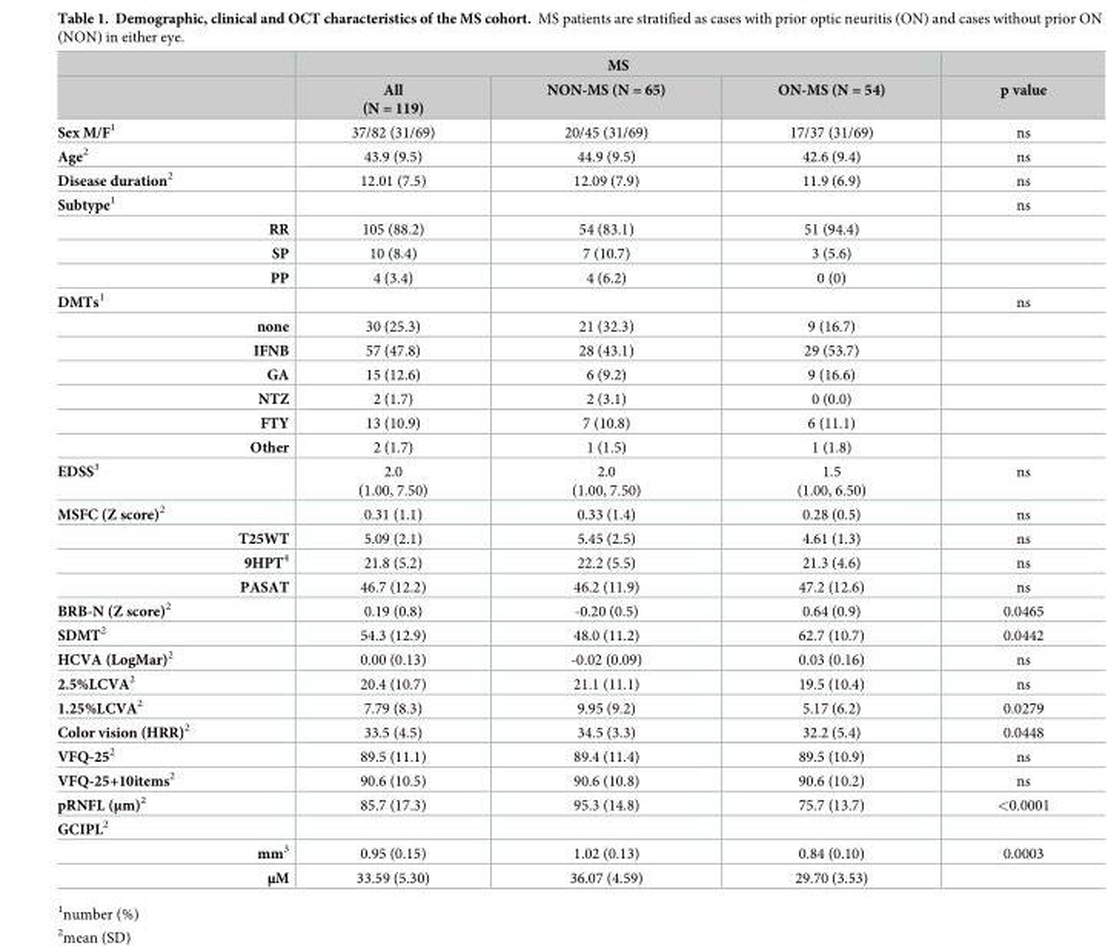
<table><thead><tr><td rowspan="2"></td><td colspan="3">MS</td><td rowspan="2">p value</td></tr><tr><td>All (N = 119)</td><td>NON-MS (N = 65)</td><td>ON-MS (N = 54)</td></tr></thead><tbody><tr><td>Sex M/F<sup>1</sup></td><td>37/82 (31/69)</td><td>20/45 (31/69)</td><td>17/37 (31/69)</td><td>ns</td></tr><tr><td>Age<sup>2</sup></td><td>43.9 (9.5)</td><td>44.9 (9.5)</td><td>42.6 (9.4)</td><td>ns</td></tr><tr><td>Disease duration<sup>2</sup></td><td>12.01 (7.5)</td><td>12.09 (7.9)</td><td>11.9 (6.9)</td><td>ns</td></tr><tr><td>Subtype<sup>1</sup></td><td></td><td></td><td></td><td>ns</td></tr><tr><td>RR</td><td>105 (88.2)</td><td>54 (83.1)</td><td>51 (94.4)</td><td></td></tr><tr><td>SP</td><td>10 (8.4)</td><td>7 (10.7)</td><td>3 (5.6)</td><td></td></tr><tr><td>PP</td><td>4 (3.4)</td><td>4 (6.2)</td><td>0 (0)</td><td></td></tr><tr><td>DMTs<sup>1</sup></td><td></td><td></td><td></td><td>ns</td></tr><tr><td>none</td><td>30 (25.3)</td><td>21 (32.3)</td><td>9 (16.7)</td><td></td></tr><tr><td>IFNB</td><td>57 (47.8)</td><td>28 (43.1)</td><td>29 (53.7)</td><td></td></tr><tr><td>GA</td><td>15 (12.6)</td><td>6 (9.2)</td><td>9 (16.6)</td><td></td></tr><tr><td>NTZ</td><td>2 (1.7)</td><td>2 (3.1)</td><td>0 (0.0)</td><td></td></tr><tr><td>FTY</td><td>13 (10.9)</td><td>7 (10.8)</td><td>6 (11.1)</td><td></td></tr><tr><td>Other</td><td>2 (1.7)</td><td>1 (1.5)</td><td>1 (1.8)</td><td></td></tr><tr><td>EDSS<sup>3</sup></td><td>2.0 (1.00, 7.50)</td><td>2.0 (1.00, 7.50)</td><td>1.5 (1.00, 6.50)</td><td>ns</td></tr><tr><td>MSFC (Z score)<sup>2</sup></td><td>0.31 (1.1)</td><td>0.33 (1.4)</td><td>0.28 (0.5)</td><td>ns</td></tr><tr><td>T25WT</td><td>5.09 (2.1)</td><td>5.45 (2.5)</td><td>4.61 (1.3)</td><td>ns</td></tr><tr><td>9HPT<sup>4</sup></td><td>21.8 (5.2)</td><td>22.2 (5.5)</td><td>21.3 (4.6)</td><td>ns</td></tr><tr><td>PASAT</td><td>46.7 (12.2)</td><td>46.2 (11.9)</td><td>47.2 (12.6)</td><td>ns</td></tr><tr><td>BRB-N (Z score)<sup>2</sup></td><td>0.19 (0.8)</td><td>-0.20 (0.5)</td><td>0.64 (0.9)</td><td>0.0465</td></tr><tr><td>SDMT<sup>2</sup></td><td>54.3 (12.9)</td><td>48.0 (11.2)</td><td>62.7 (10.7)</td><td>0.0442</td></tr><tr><td>HCVA (LogMar)<sup>2</sup></td><td>0.00 (0.13)</td><td>-0.02 (0.09)</td><td>0.03 (0.16)</td><td>ns</td></tr><tr><td>2.5%LCVA<sup>2</sup></td><td>20.4 (10.7)</td><td>21.1 (11.1)</td><td>19.5 (10.4)</td><td>ns</td></tr><tr><td>1.25%LCVA<sup>2</sup></td><td>7.79 (8.3)</td><td>9.95 (9.2)</td><td>5.17 (6.2)</td><td>0.0279</td></tr><tr><td>Color vision (HRR)<sup>2</sup></td><td>33.5 (4.5)</td><td>34.5 (3.3)</td><td>32.2 (5.4)</td><td>0.0448</td></tr><tr><td>VFQ-25<sup>2</sup></td><td>89.5 (11.1)</td><td>89.4 (11.4)</td><td>89.5 (10.9)</td><td>ns</td></tr><tr><td>VFQ-25+10items<sup>2</sup></td><td>90.6 (10.5)</td><td>90.6 (10.8)</td><td>90.6 (10.2)</td><td>ns</td></tr><tr><td>pRNFL (μm)<sup>2</sup></td><td>85.7 (17.3)</td><td>95.3 (14.8)</td><td>75.7 (13.7)</td><td>&lt;0.0001</td></tr><tr><td colspan="5">GCIPL<sup>2</sup></td></tr><tr><td>mm<sup>3</sup></td><td>0.95 (0.15)</td><td>1.02 (0.13)</td><td>0.84 (0.10)</td><td>0.0003</td></tr><tr><td>μM</td><td>33.59 (5.30)</td><td>36.07 (4.59)</td><td>29.70 (3.53)</td><td></td></tr></tbody></table>